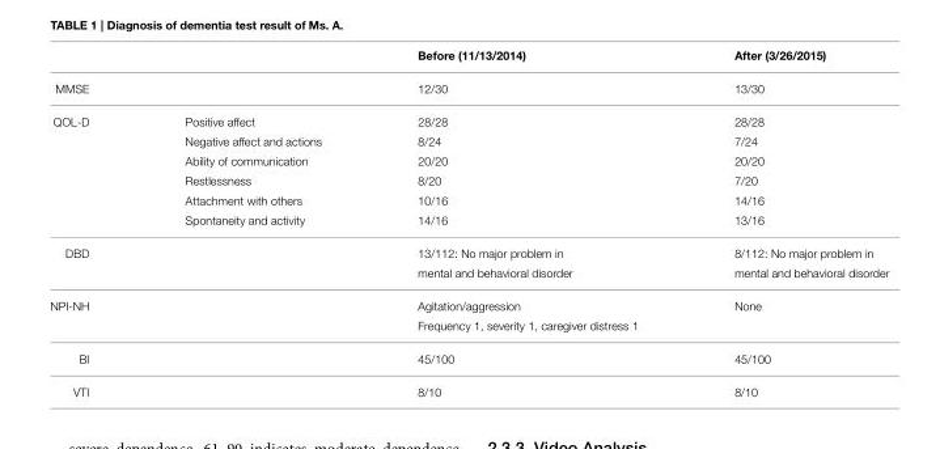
<table><thead><tr><td></td><td></td><td>Before (11/13/2014)</td><td>After (3/26/2015)</td></tr></thead><tbody><tr><td>MMSE</td><td></td><td>12/30</td><td>13/30</td></tr><tr><td rowspan="6">QOL-D</td><td>Positive affect</td><td>28/28</td><td>28/28</td></tr><tr><td>Negative affect and actions</td><td>8/24</td><td>7/24</td></tr><tr><td>Ability of communication</td><td>20/20</td><td>20/20</td></tr><tr><td>Restlessness</td><td>8/20</td><td>7/20</td></tr><tr><td>Attachment with others</td><td>10/16</td><td>14/16</td></tr><tr><td>Spontaneity and activity</td><td>14/16</td><td>13/16</td></tr><tr><td rowspan="2">DBD</td><td></td><td>13/112: No major problem in</td><td>8/112: No major problem in</td></tr><tr><td></td><td>mental and behavioral disorder</td><td>mental and behavioral disorder</td></tr><tr><td rowspan="2">NPI-NH</td><td></td><td>Agitation/aggression</td><td>None</td></tr><tr><td></td><td>Frequency 1, severity 1, caregiver distress 1</td><td></td></tr><tr><td>BI</td><td></td><td>45/100</td><td>45/100</td></tr><tr><td>VTI</td><td></td><td>8/10</td><td>8/10</td></tr></tbody></table>